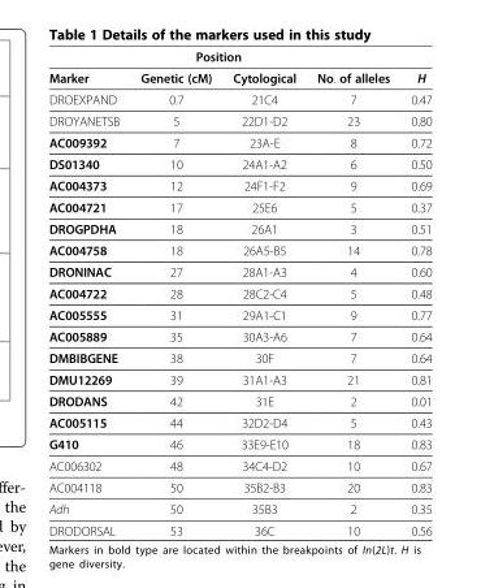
<table><thead><tr><td rowspan="2">Marker</td><td colspan="2">Position</td><td rowspan="2">No. of alleles</td><td rowspan="2">H</td></tr><tr><td>Genetic (cM)</td><td>Cytological</td></tr></thead><tbody><tr><td>DROEXPAND</td><td>0.7</td><td>21C4</td><td>7</td><td>0.47</td></tr><tr><td>DROYANETSB</td><td>5</td><td>22D1-D2</td><td>23</td><td>0.80</td></tr><tr><td>AC009392</td><td>7</td><td>23A-E</td><td>8</td><td>0.72</td></tr><tr><td>DS01340</td><td>10</td><td>24A1-A2</td><td>6</td><td>0.50</td></tr><tr><td>AC004373</td><td>12</td><td>24F1-F2</td><td>9</td><td>0.69</td></tr><tr><td>AC004721</td><td>17</td><td>25E6</td><td>5</td><td>0.37</td></tr><tr><td>DROGPDHA</td><td>18</td><td>26A1</td><td>3</td><td>0.51</td></tr><tr><td>AC004758</td><td>18</td><td>26A5-B5</td><td>14</td><td>0.78</td></tr><tr><td>DRONINAC</td><td>27</td><td>28A1-A3</td><td>4</td><td>0.60</td></tr><tr><td>AC004722</td><td>28</td><td>28C2-C4</td><td>5</td><td>0.48</td></tr><tr><td>AC005555</td><td>31</td><td>29A1-C1</td><td>9</td><td>0.77</td></tr><tr><td>AC005889</td><td>35</td><td>30A3-A6</td><td>7</td><td>0.64</td></tr><tr><td>DMBIBGENE</td><td>38</td><td>30F</td><td>7</td><td>0.64</td></tr><tr><td>DMU12269</td><td>39</td><td>31A1-A3</td><td>21</td><td>0.81</td></tr><tr><td>DRODANS</td><td>42</td><td>31E</td><td>2</td><td>0.01</td></tr><tr><td>AC005115</td><td>44</td><td>32D2-D4</td><td>5</td><td>0.43</td></tr><tr><td>G410</td><td>46</td><td>33E9-E10</td><td>18</td><td>0.83</td></tr><tr><td>AC006302</td><td>48</td><td>34C4-D2</td><td>10</td><td>0.67</td></tr><tr><td>AC004118</td><td>50</td><td>35B2-B3</td><td>20</td><td>0.83</td></tr><tr><td>Adh</td><td>50</td><td>35B3</td><td>2</td><td>0.35</td></tr><tr><td>DRODORSAL</td><td>53</td><td>36C</td><td>10</td><td>0.56</td></tr></tbody></table>